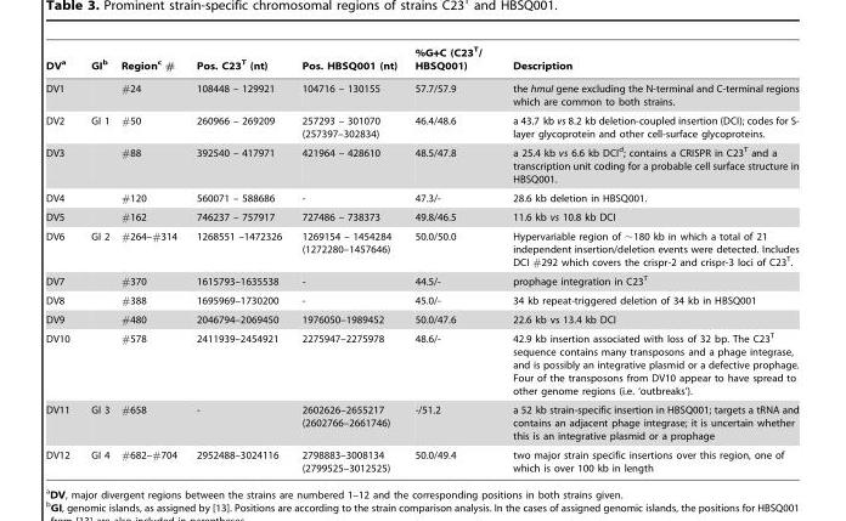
<table><thead><tr><td>DV<sup>a</sup></td><td>GI<sup>b</sup></td><td>Region<sup>c</sup> #</td><td>Pos. C23<sup>T</sup> (nt)</td><td>Pos. HBSQ001 (nt)</td><td>%G+C (C23<sup>T</sup>/ HBSQ001)</td><td>Description</td></tr></thead><tbody><tr><td>DV1</td><td></td><td>#24</td><td>108448 – 129921</td><td>104716 – 130155</td><td>57.7/57.9</td><td>the hmuI gene excluding the N-terminal and C-terminal regions which are common to both strains.</td></tr><tr><td>DV2</td><td>GI 1</td><td>#50</td><td>260966 – 269209</td><td>257293 – 301070 (257397–302834)</td><td>46.4/48.6</td><td>a 43.7 kb vs 8.2 kb deletion-coupled insertion (DCI); codes for S- layer glycoprotein and other cell-surface glycoproteins.</td></tr><tr><td>DV3</td><td></td><td>#88</td><td>392540 – 417971</td><td>421964 – 428610</td><td>48.5/47.8</td><td>a 25.4 kb vs 6.6 kb DCI<sup>d</sup>; contains a CRISPR in C23<sup>T</sup> and a transcription unit coding for a probable cell surface structure in HBSQ001.</td></tr><tr><td>DV4</td><td></td><td>#120</td><td>560071 – 588686</td><td>-</td><td>47.3/-</td><td>28.6 kb deletion in HBSQ001.</td></tr><tr><td>DV5</td><td></td><td>#162</td><td>746237 – 757917</td><td>727486 – 738373</td><td>49.8/46.5</td><td>11.6 kb vs 10.8 kb DCI</td></tr><tr><td>DV6</td><td>GI 2</td><td>#264–#314</td><td>1268551 –1472326</td><td>1269154 – 1454284 (1272280–1457646)</td><td>50.0/50.0</td><td>Hypervariable region of ∼180 kb in which a total of 21 independent insertion/deletion events were detected. Includes DCI #292 which covers the crispr-2 and crispr-3 loci of C23<sup>T</sup>.</td></tr><tr><td>DV7</td><td></td><td>#370</td><td>1615793–1635538</td><td>-</td><td>44.5/-</td><td>prophage integration in C23<sup>T</sup></td></tr><tr><td>DV8</td><td></td><td>#388</td><td>1695969–1730200</td><td>-</td><td>45.0/-</td><td>34 kb repeat-triggered deletion of 34 kb in HBSQ001</td></tr><tr><td>DV9</td><td></td><td>#480</td><td>2046794–2069450</td><td>1976050–1989452</td><td>50.0/47.6</td><td>22.6 kb vs 13.4 kb DCI</td></tr><tr><td>DV10</td><td></td><td>#578</td><td>2411939–2454921</td><td>2275947–2275978</td><td>48.6/-</td><td>42.9 kb insertion associated with loss of 32 bp. The C23<sup>T</sup> sequence contains many transposons and a phage integrase, and is possibly an integrative plasmid or a defective prophage. Four of the transposons from DV10 appear to have spread to other genome regions (i.e. ‘outbreaks’).</td></tr><tr><td>DV11</td><td>GI 3</td><td>#658</td><td>-</td><td>2602626–2655217 (2602766–2661746)</td><td>-/51.2</td><td>a 52 kb strain-specific insertion in HBSQ001; targets a tRNA and contains an adjacent phage integrase; it is uncertain whether this is an integrative plasmid or a prophage</td></tr><tr><td>DV12</td><td>GI 4</td><td>#682–#704</td><td>2952488–3024116</td><td>2798883–3008134 (2799525–3012525)</td><td>50.0/49.4</td><td>two major strain specific insertions over this region, one of which is over 100 kb in length</td></tr></tbody></table>